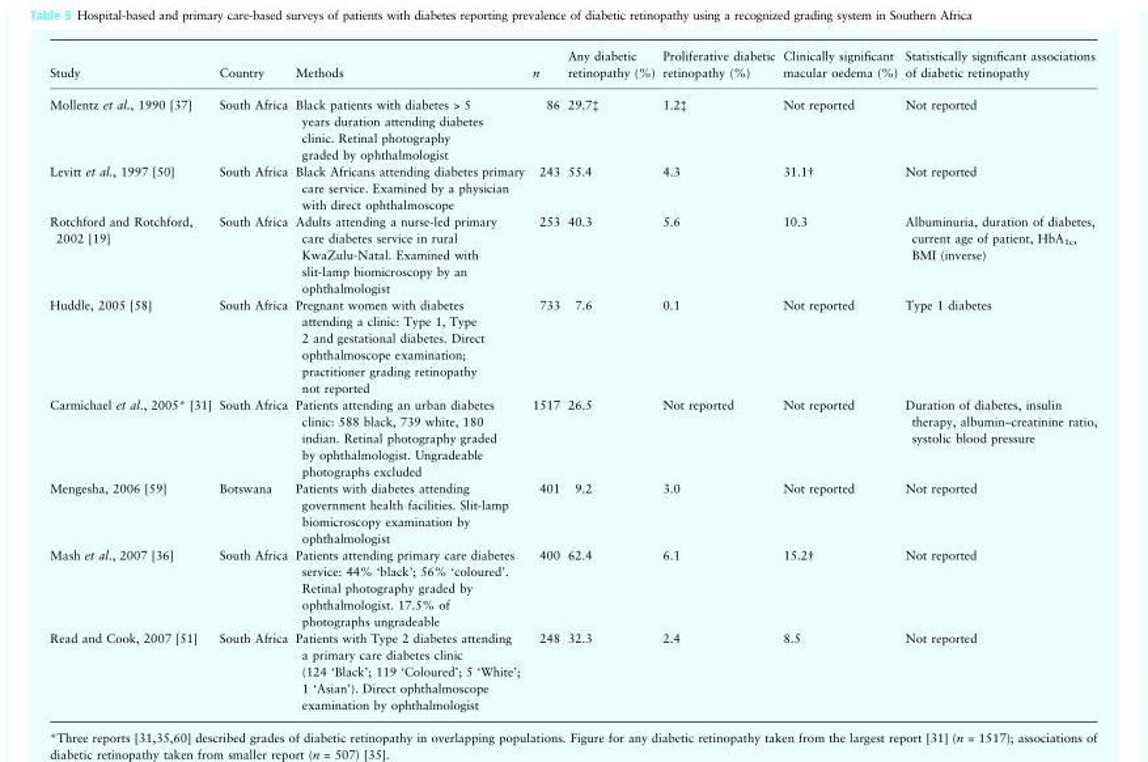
<table><thead><tr><td>Study</td><td>Country</td><td>Methods</td><td>n</td><td>Any diabetic retinopathy (%)</td><td>Proliferative diabetic retinopathy (%)</td><td>Clinically significant macular oedema (%)</td><td>Statistically significant associations of diabetic retinopathy</td></tr></thead><tbody><tr><td>Mollentz et al., 1990 [37]</td><td>South Africa</td><td>Black patients with diabetes &gt; 5 years duration attending diabetes clinic. Retinal photography graded by ophthalmologist</td><td>86</td><td>29.7‡</td><td>1.2‡</td><td>Not reported</td><td>Not reported</td></tr><tr><td>Levitt et al., 1997 [50]</td><td>South Africa</td><td>Black Africans attending diabetes primary care service. Examined by a physician with direct ophthalmoscope</td><td>243</td><td>55.4</td><td>4.3</td><td>31.1†</td><td>Not reported</td></tr><tr><td>Rotchford and Rotchford, 2002 [19]</td><td>South Africa</td><td>Adults attending a nurse-led primary care diabetes service in rural KwaZulu-Natal. Examined with slit-lamp biomicroscopy by an ophthalmologist</td><td>253</td><td>40.3</td><td>5.6</td><td>10.3</td><td>Albuminuria, duration of diabetes, current age of patient, HbA<sub>1c</sub>, BMI (inverse)</td></tr><tr><td>Huddle, 2005 [58]</td><td>South Africa</td><td>Pregnant women with diabetes attending a clinic: Type 1, Type 2 and gestational diabetes. Direct ophthalmoscope examination; practitioner grading retinopathy not reported</td><td>733</td><td>7.6</td><td>0.1</td><td>Not reported</td><td>Type 1 diabetes</td></tr><tr><td>Carmichael et al., 2005* [31]</td><td>South Africa</td><td>Patients attending an urban diabetes clinic: 588 black, 739 white, 180 indian. Retinal photography graded by ophthalmologist. Ungradeable photographs excluded</td><td>1517</td><td>26.5</td><td>Not reported</td><td>Not reported</td><td>Duration of diabetes, insulin therapy, albumin–creatinine ratio, systolic blood pressure</td></tr><tr><td>Mengesha, 2006 [59]</td><td>Botswana</td><td>Patients with diabetes attending government health facilities. Slit-lamp biomicroscopy examination by ophthalmologist</td><td>401</td><td>9.2</td><td>3.0</td><td>Not reported</td><td>Not reported</td></tr><tr><td>Mash et al., 2007 [36]</td><td>South Africa</td><td>Patients attending primary care diabetes service: 44% ‘black’; 56% ‘coloured’. Retinal photography graded by ophthalmologist. 17.5% of photographs ungradeable</td><td>400</td><td>62.4</td><td>6.1</td><td>15.2†</td><td>Not reported</td></tr><tr><td>Read and Cook, 2007 [51]</td><td>South Africa</td><td>Patients with Type 2 diabetes attending a primary care diabetes clinic (124 ‘Black’; 119 ‘Coloured’; 5 ‘White’; 1 ‘Asian’). Direct ophthalmoscope examination by ophthalmologist</td><td>248</td><td>32.3</td><td>2.4</td><td>8.5</td><td>Not reported</td></tr></tbody></table>